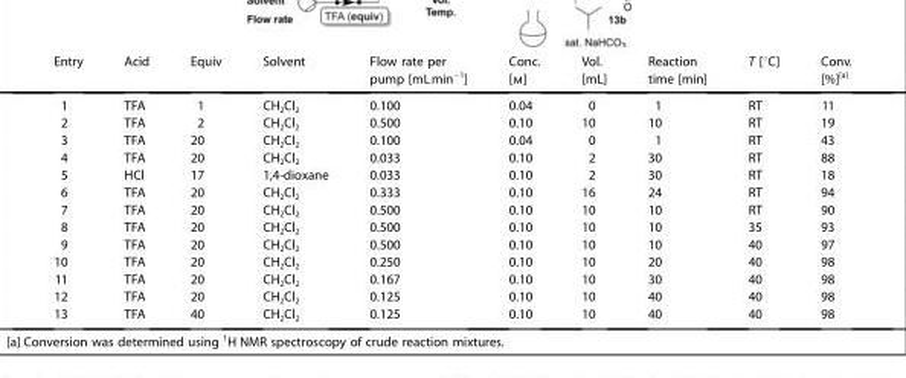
<table><thead><tr><td>Entry</td><td>Acid</td><td>Equiv</td><td>Solvent</td><td>Flow rate per pump [mLmin<sup>−1</sup>]</td><td>Conc. [m]</td><td>Vol. [mL]</td><td>Reaction time [min]</td><td>T [°C]</td><td>Conv. [%]<sup>[a]</sup></td></tr></thead><tbody><tr><td>1</td><td>TFA</td><td>1</td><td>CH<sub>2</sub>Cl<sub>2</sub></td><td>0.100</td><td>0.04</td><td>0</td><td>1</td><td>RT</td><td>11</td></tr><tr><td>2</td><td>TFA</td><td>2</td><td>CH<sub>2</sub>Cl<sub>2</sub></td><td>0.500</td><td>0.10</td><td>10</td><td>10</td><td>RT</td><td>19</td></tr><tr><td>3</td><td>TFA</td><td>20</td><td>CH<sub>2</sub>Cl<sub>2</sub></td><td>0.100</td><td>0.04</td><td>0</td><td>1</td><td>RT</td><td>43</td></tr><tr><td>4</td><td>TFA</td><td>20</td><td>CH<sub>2</sub>Cl<sub>2</sub></td><td>0.033</td><td>0.10</td><td>2</td><td>30</td><td>RT</td><td>88</td></tr><tr><td>5</td><td>HCl</td><td>17</td><td>1,4-dioxane</td><td>0.033</td><td>0.10</td><td>2</td><td>30</td><td>RT</td><td>18</td></tr><tr><td>6</td><td>TFA</td><td>20</td><td>CH<sub>2</sub>Cl<sub>2</sub></td><td>0.333</td><td>0.10</td><td>16</td><td>24</td><td>RT</td><td>94</td></tr><tr><td>7</td><td>TFA</td><td>20</td><td>CH<sub>2</sub>Cl<sub>2</sub></td><td>0.500</td><td>0.10</td><td>10</td><td>10</td><td>RT</td><td>90</td></tr><tr><td>8</td><td>TFA</td><td>20</td><td>CH<sub>2</sub>Cl<sub>2</sub></td><td>0.500</td><td>0.10</td><td>10</td><td>10</td><td>35</td><td>93</td></tr><tr><td>9</td><td>TFA</td><td>20</td><td>CH<sub>2</sub>Cl<sub>2</sub></td><td>0.500</td><td>0.10</td><td>10</td><td>10</td><td>40</td><td>97</td></tr><tr><td>10</td><td>TFA</td><td>20</td><td>CH<sub>2</sub>Cl<sub>2</sub></td><td>0.250</td><td>0.10</td><td>10</td><td>20</td><td>40</td><td>98</td></tr><tr><td>11</td><td>TFA</td><td>20</td><td>CH<sub>2</sub>Cl<sub>2</sub></td><td>0.167</td><td>0.10</td><td>10</td><td>30</td><td>40</td><td>98</td></tr><tr><td>12</td><td>TFA</td><td>20</td><td>CH<sub>2</sub>Cl<sub>2</sub></td><td>0.125</td><td>0.10</td><td>10</td><td>40</td><td>40</td><td>98</td></tr><tr><td>13</td><td>TFA</td><td>40</td><td>CH<sub>2</sub>Cl<sub>2</sub></td><td>0.125</td><td>0.10</td><td>10</td><td>40</td><td>40</td><td>98</td></tr></tbody></table>